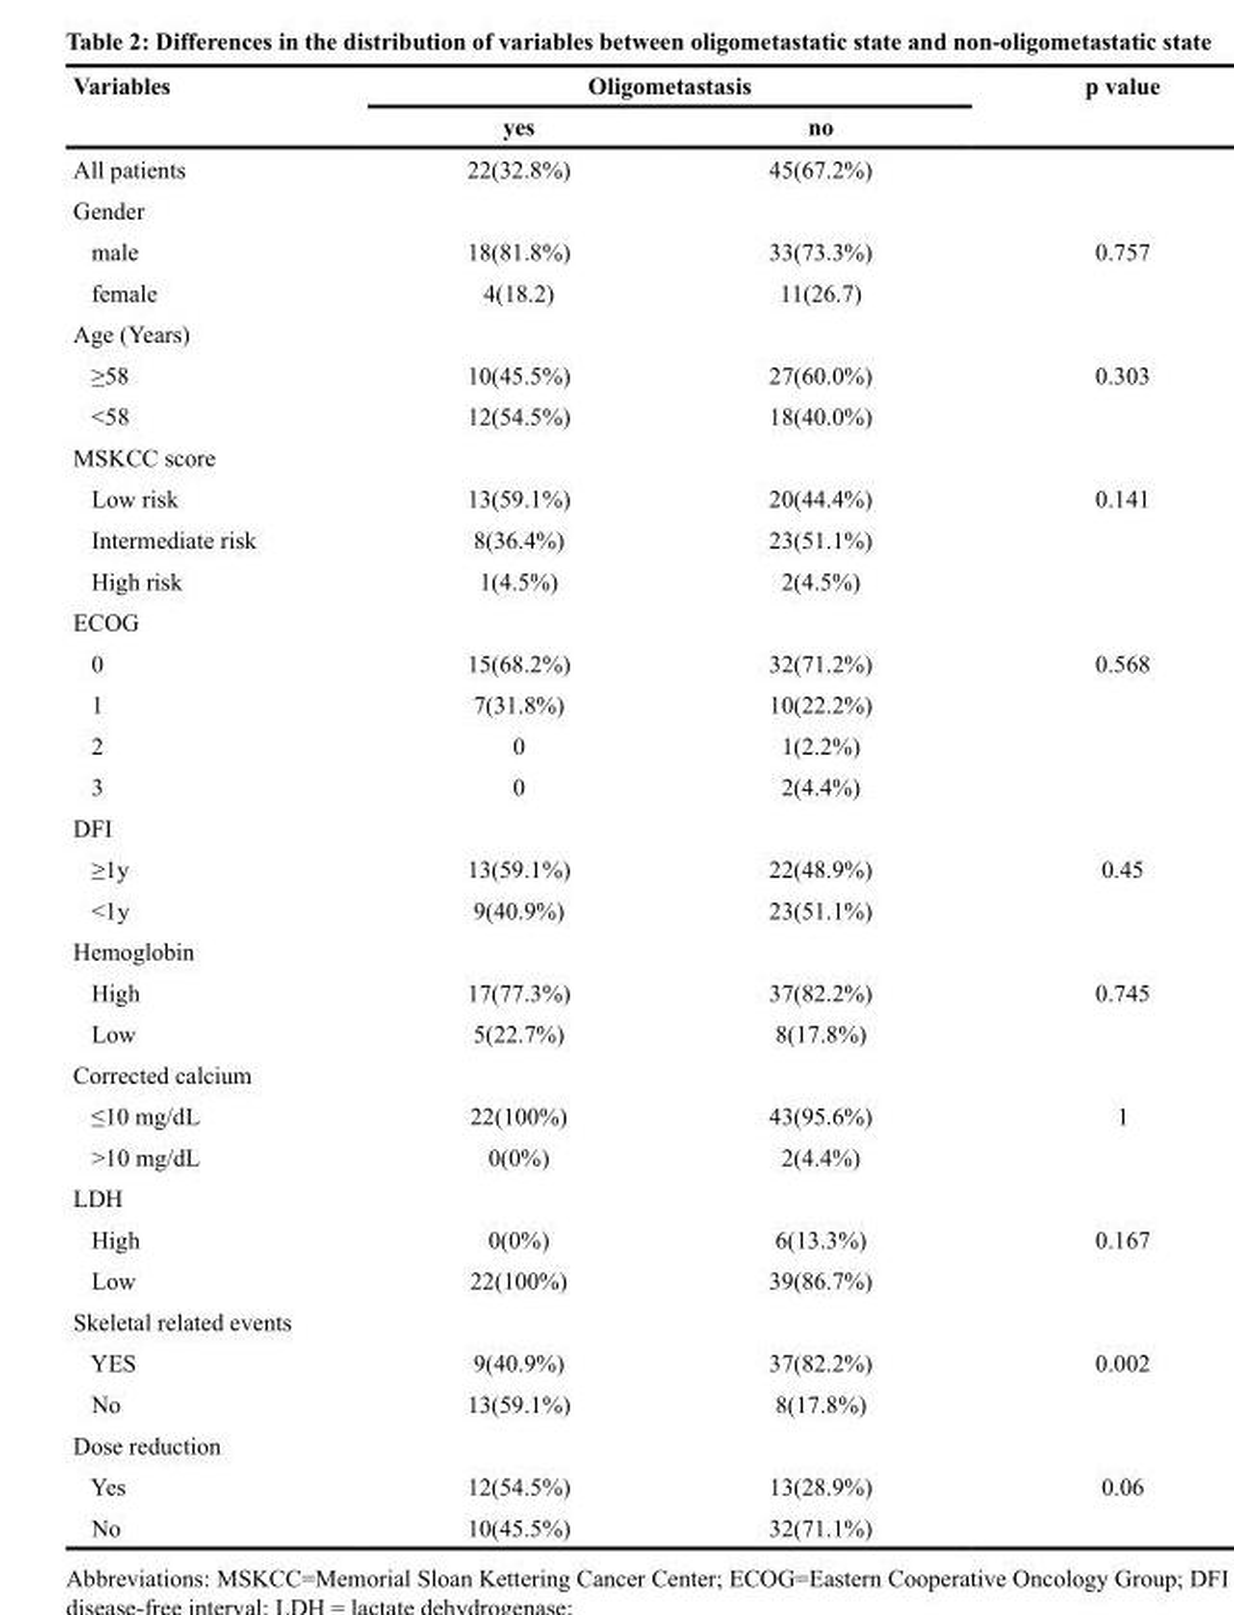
<table><thead><tr><td rowspan="2">Variables</td><td colspan="2">Oligometastasis</td><td rowspan="2">p value</td></tr><tr><td>yes</td><td>no</td></tr></thead><tbody><tr><td>All patients</td><td>22(32.8%)</td><td>45(67.2%)</td><td></td></tr><tr><td colspan="4">Gender</td></tr><tr><td>male</td><td>18(81.8%)</td><td>33(73.3%)</td><td>0.757</td></tr><tr><td>female</td><td>4(18.2)</td><td>11(26.7)</td><td></td></tr><tr><td colspan="4">Age (Years)</td></tr><tr><td>≥58</td><td>10(45.5%)</td><td>27(60.0%)</td><td>0.303</td></tr><tr><td>&lt;58</td><td>12(54.5%)</td><td>18(40.0%)</td><td></td></tr><tr><td colspan="4">MSKCC score</td></tr><tr><td>Low risk</td><td>13(59.1%)</td><td>20(44.4%)</td><td>0.141</td></tr><tr><td>Intermediate risk</td><td>8(36.4%)</td><td>23(51.1%)</td><td></td></tr><tr><td>High risk</td><td>1(4.5%)</td><td>2(4.5%)</td><td></td></tr><tr><td colspan="4">ECOG</td></tr><tr><td>0</td><td>15(68.2%)</td><td>32(71.2%)</td><td>0.568</td></tr><tr><td>1</td><td>7(31.8%)</td><td>10(22.2%)</td><td></td></tr><tr><td>2</td><td>0</td><td>1(2.2%)</td><td></td></tr><tr><td>3</td><td>0</td><td>2(4.4%)</td><td></td></tr><tr><td colspan="4">DFI</td></tr><tr><td>≥1y</td><td>13(59.1%)</td><td>22(48.9%)</td><td>0.45</td></tr><tr><td>&lt;1y</td><td>9(40.9%)</td><td>23(51.1%)</td><td></td></tr><tr><td colspan="4">Hemoglobin</td></tr><tr><td>High</td><td>17(77.3%)</td><td>37(82.2%)</td><td>0.745</td></tr><tr><td>Low</td><td>5(22.7%)</td><td>8(17.8%)</td><td></td></tr><tr><td colspan="4">Corrected calcium</td></tr><tr><td>≤10 mg/dL</td><td>22(100%)</td><td>43(95.6%)</td><td>1</td></tr><tr><td>&gt;10 mg/dL</td><td>0(0%)</td><td>2(4.4%)</td><td></td></tr><tr><td colspan="4">LDH</td></tr><tr><td>High</td><td>0(0%)</td><td>6(13.3%)</td><td>0.167</td></tr><tr><td>Low</td><td>22(100%)</td><td>39(86.7%)</td><td></td></tr><tr><td colspan="4">Skeletal related events</td></tr><tr><td>YES</td><td>9(40.9%)</td><td>37(82.2%)</td><td>0.002</td></tr><tr><td>No</td><td>13(59.1%)</td><td>8(17.8%)</td><td></td></tr><tr><td colspan="4">Dose reduction</td></tr><tr><td>Yes</td><td>12(54.5%)</td><td>13(28.9%)</td><td>0.06</td></tr><tr><td>No</td><td>10(45.5%)</td><td>32(71.1%)</td><td></td></tr></tbody></table>